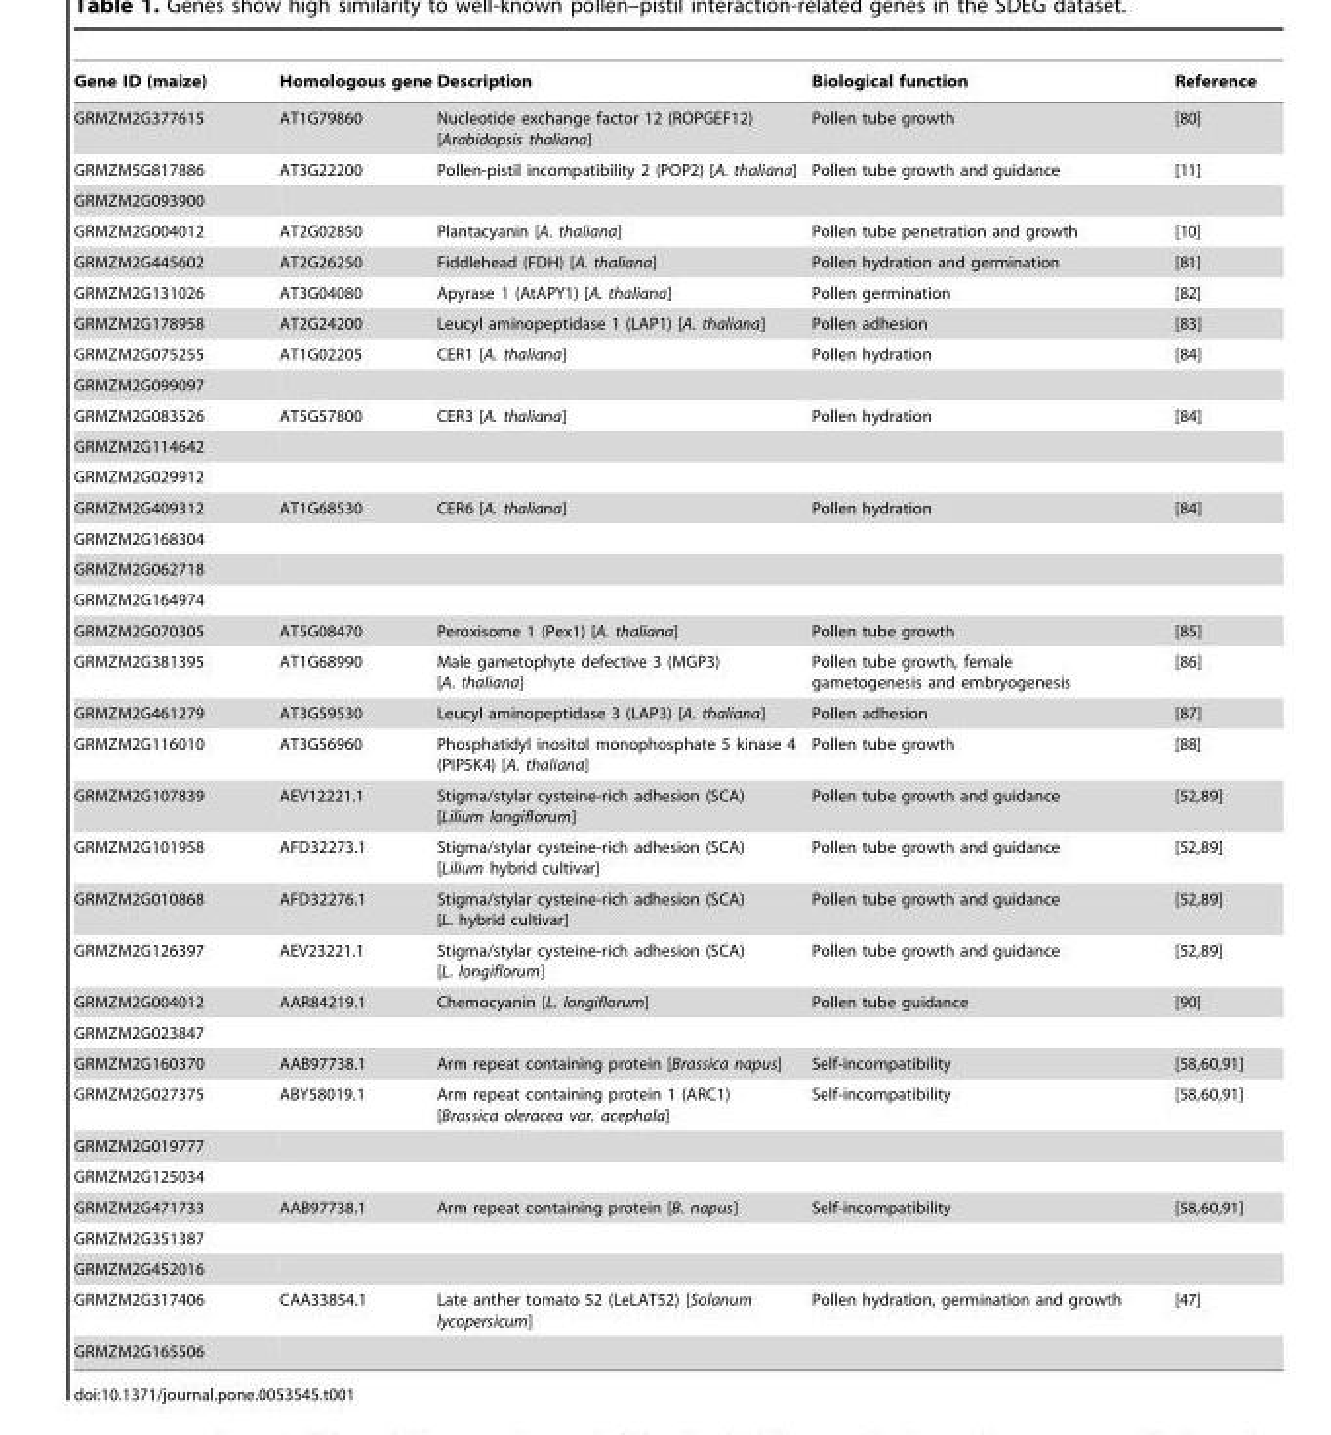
<table><thead><tr><td>Gene ID (maize)</td><td>Homologous gene</td><td>Description</td><td>Biological function</td><td>Reference</td></tr></thead><tbody><tr><td>GRMZM2G377615</td><td>AT1G79860</td><td>Nucleotide exchange factor 12 (ROPGEF12) [Arabidopsis thaliana]</td><td>Pollen tube growth</td><td>[80]</td></tr><tr><td>GRMZM5G817886</td><td>AT3G22200</td><td>Pollen-pistil incompatibility 2 (POP2) [A. thaliana]</td><td>Pollen tube growth and guidance</td><td>[11]</td></tr><tr><td colspan="5">GRMZM2G093900</td></tr><tr><td>GRMZM2G004012</td><td>AT2G02850</td><td>Plantacyanin [A. thaliana]</td><td>Pollen tube penetration and growth</td><td>[10]</td></tr><tr><td>GRMZM2G445602</td><td>AT2G26250</td><td>Fiddlehead (FDH) [A. thaliana]</td><td>Pollen hydration and germination</td><td>[81]</td></tr><tr><td>GRMZM2G131026</td><td>AT3G04080</td><td>Apyrase 1 (AtAPY1) [A. thaliana]</td><td>Pollen germination</td><td>[82]</td></tr><tr><td>GRMZM2G178958</td><td>AT2G24200</td><td>Leucyl aminopeptidase 1 (LAP1) [A. thaliana]</td><td>Pollen adhesion</td><td>[83]</td></tr><tr><td>GRMZM2G075255</td><td>AT1G02205</td><td>CER1 [A. thaliana]</td><td>Pollen hydration</td><td>[84]</td></tr><tr><td colspan="5">GRMZM2G099097</td></tr><tr><td>GRMZM2G083526</td><td>AT5G57800</td><td>CER3 [A. thaliana]</td><td>Pollen hydration</td><td>[84]</td></tr><tr><td colspan="5">GRMZM2G114642</td></tr><tr><td colspan="5">GRMZM2G029912</td></tr><tr><td>GRMZM2G409312</td><td>AT1G68530</td><td>CER6 [A. thaliana]</td><td>Pollen hydration</td><td>[84]</td></tr><tr><td colspan="5">GRMZM2G168304</td></tr><tr><td colspan="5">GRMZM2G062718</td></tr><tr><td colspan="5">GRMZM2G164974</td></tr><tr><td>GRMZM2G070305</td><td>AT5G08470</td><td>Peroxisome 1 (Pex1) [A. thaliana]</td><td>Pollen tube growth</td><td>[85]</td></tr><tr><td>GRMZM2G381395</td><td>AT1G68990</td><td>Male gametophyte defective 3 (MGP3) [A. thaliana]</td><td>Pollen tube growth, female gametogenesis and embryogenesis</td><td>[86]</td></tr><tr><td>GRMZM2G461279</td><td>AT3G59530</td><td>Leucyl aminopeptidase 3 (LAP3) [A. thaliana]</td><td>Pollen adhesion</td><td>[87]</td></tr><tr><td>GRMZM2G116010</td><td>AT3G56960</td><td>Phosphatidyl inositol monophosphate 5 kinase 4 (PIP5K4) [A. thaliana]</td><td>Pollen tube growth</td><td>[88]</td></tr><tr><td>GRMZM2G107839</td><td>AEV12221.1</td><td>Stigma/stylar cysteine-rich adhesion (SCA) [Lilium longiflorum]</td><td>Pollen tube growth and guidance</td><td>[52,89]</td></tr><tr><td>GRMZM2G101958</td><td>AFD32273.1</td><td>Stigma/stylar cysteine-rich adhesion (SCA) [Lilium hybrid cultivar]</td><td>Pollen tube growth and guidance</td><td>[52,89]</td></tr><tr><td>GRMZM2G010868</td><td>AFD32276.1</td><td>Stigma/stylar cysteine-rich adhesion (SCA) [L. hybrid cultivar]</td><td>Pollen tube growth and guidance</td><td>[52,89]</td></tr><tr><td>GRMZM2G126397</td><td>AEV23221.1</td><td>Stigma/stylar cysteine-rich adhesion (SCA) [L. longiflorum]</td><td>Pollen tube growth and guidance</td><td>[52,89]</td></tr><tr><td>GRMZM2G004012</td><td>AAR84219.1</td><td>Chemocyanin [L. longiflorum]</td><td>Pollen tube guidance</td><td>[90]</td></tr><tr><td colspan="5">GRMZM2G023847</td></tr><tr><td>GRMZM2G160370</td><td>AAB97738.1</td><td>Arm repeat containing protein [Brassica napus]</td><td>Self-incompatibility</td><td>[58,60,91]</td></tr><tr><td>GRMZM2G027375</td><td>ABY58019.1</td><td>Arm repeat containing protein 1 (ARC1) [Brassica oleracea var. acephala]</td><td>Self-incompatibility</td><td>[58,60,91]</td></tr><tr><td colspan="5">GRMZM2G019777</td></tr><tr><td colspan="5">GRMZM2G125034</td></tr><tr><td>GRMZM2G471733</td><td>AAB97738.1</td><td>Arm repeat containing protein [B. napus]</td><td>Self-incompatibility</td><td>[58,60,91]</td></tr><tr><td colspan="5">GRMZM2G351387</td></tr><tr><td colspan="5">GRMZM2G452016</td></tr><tr><td>GRMZM2G317406</td><td>CAA33854.1</td><td>Late anther tomato 52 (LeLAT52) [Solanum lycopersicum]</td><td>Pollen hydration, germination and growth</td><td>[47]</td></tr><tr><td>GRMZM2G165506</td><td></td><td></td><td></td><td></td></tr></tbody></table>